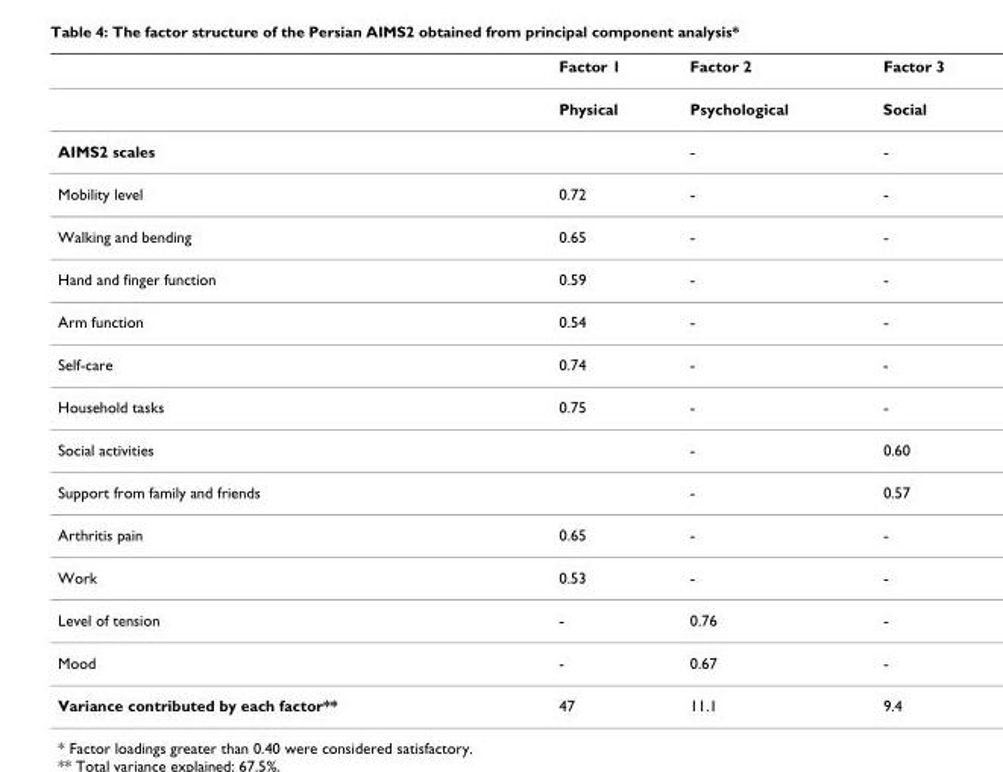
<table><thead><tr><td></td><td>Factor 1</td><td>Factor 2</td><td>Factor 3</td></tr></thead><tbody><tr><td></td><td>Physical</td><td>Psychological</td><td>Social</td></tr><tr><td>AIMS2 scales</td><td></td><td>-</td><td>-</td></tr><tr><td>Mobility level</td><td>0.72</td><td>-</td><td>-</td></tr><tr><td>Walking and bending</td><td>0.65</td><td>-</td><td>-</td></tr><tr><td>Hand and finger function</td><td>0.59</td><td>-</td><td>-</td></tr><tr><td>Arm function</td><td>0.54</td><td>-</td><td>-</td></tr><tr><td>Self-care</td><td>0.74</td><td>-</td><td>-</td></tr><tr><td>Household tasks</td><td>0.75</td><td>-</td><td>-</td></tr><tr><td>Social activities</td><td></td><td>-</td><td>0.60</td></tr><tr><td>Support from family and friends</td><td></td><td>-</td><td>0.57</td></tr><tr><td>Arthritis pain</td><td>0.65</td><td>-</td><td>-</td></tr><tr><td>Work</td><td>0.53</td><td>-</td><td>-</td></tr><tr><td>Level of tension</td><td>-</td><td>0.76</td><td>-</td></tr><tr><td>Mood</td><td>-</td><td>0.67</td><td>-</td></tr><tr><td>Variance contributed by each factor**</td><td>47</td><td>11.1</td><td>9.4</td></tr></tbody></table>